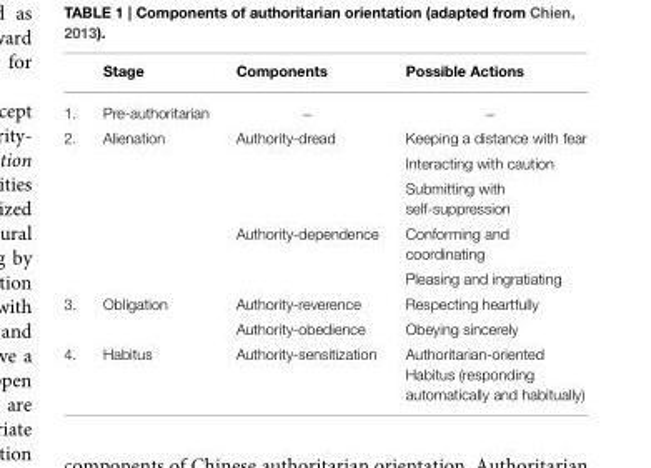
<table><thead><tr><td></td><td>Stage</td><td>Components</td><td>Possible Actions</td></tr></thead><tbody><tr><td>1.</td><td>Pre-authoritarian</td><td>−</td><td>−</td></tr><tr><td rowspan="5">2.</td><td>Alienation</td><td>Authority-dread</td><td>Keeping a distance with fear</td></tr><tr><td></td><td></td><td>Interacting with caution</td></tr><tr><td></td><td></td><td>Submitting with self-suppression</td></tr><tr><td></td><td>Authority-dependence</td><td>Conforming and coordinating</td></tr><tr><td></td><td></td><td>Pleasing and ingratiating</td></tr><tr><td rowspan="2">3.</td><td>Obligation</td><td>Authority-reverence</td><td>Respecting heartfully</td></tr><tr><td></td><td>Authority-obedience</td><td>Obeying sincerely</td></tr><tr><td>4.</td><td>Habitus</td><td>Authority-sensitization</td><td>Authoritarian-oriented Habitus (responding automatically and habitually)</td></tr></tbody></table>